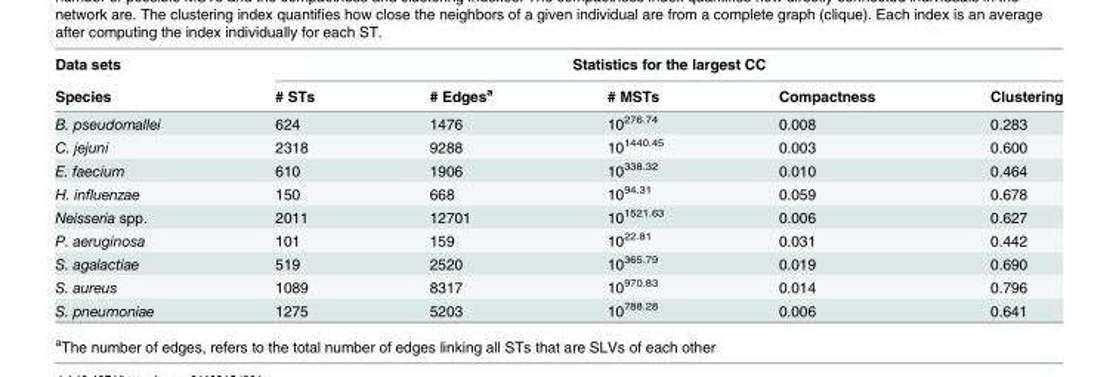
<table><thead><tr><td rowspan="2">Data sets Species</td><td colspan="5">Statistics for the largest CC</td></tr><tr><td># STs</td><td># Edges<sup>a</sup></td><td># MSTs</td><td>Compactness</td><td>Clustering</td></tr></thead><tbody><tr><td>B. pseudomallei</td><td>624</td><td>1476</td><td>10<sup>276.74</sup></td><td>0.008</td><td>0.283</td></tr><tr><td>C. jejuni</td><td>2318</td><td>9288</td><td>10<sup>1440.45</sup></td><td>0.003</td><td>0.600</td></tr><tr><td>E. faecium</td><td>610</td><td>1906</td><td>10<sup>338.32</sup></td><td>0.010</td><td>0.464</td></tr><tr><td>H. influenzae</td><td>150</td><td>668</td><td>10<sup>94.31</sup></td><td>0.059</td><td>0.678</td></tr><tr><td>Neisseria spp.</td><td>2011</td><td>12701</td><td>10<sup>1521.63</sup></td><td>0.006</td><td>0.627</td></tr><tr><td>P. aeruginosa</td><td>101</td><td>159</td><td>10<sup>22.81</sup></td><td>0.031</td><td>0.442</td></tr><tr><td>S. agalactiae</td><td>519</td><td>2520</td><td>10<sup>365.79</sup></td><td>0.019</td><td>0.690</td></tr><tr><td>S. aureus</td><td>1089</td><td>8317</td><td>10<sup>970.83</sup></td><td>0.014</td><td>0.796</td></tr><tr><td>S. pneumoniae</td><td>1275</td><td>5203</td><td>10<sup>788.28</sup></td><td>0.006</td><td>0.641</td></tr></tbody></table>